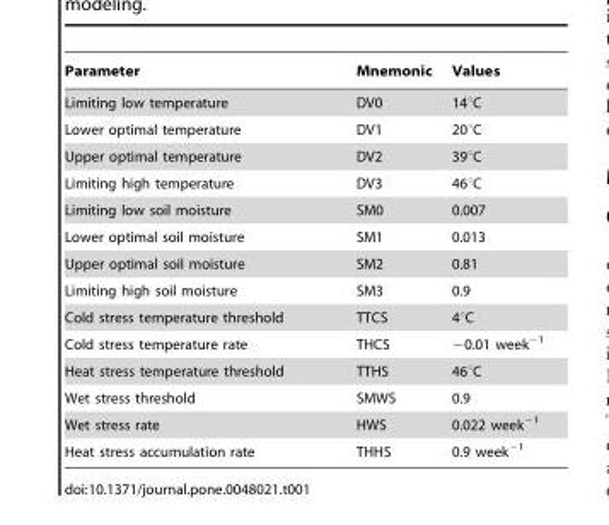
<table><thead><tr><td>Parameter</td><td>Mnemonic</td><td>Values</td></tr></thead><tbody><tr><td>Limiting low temperature</td><td>DV0</td><td>14°C</td></tr><tr><td>Lower optimal temperature</td><td>DV1</td><td>20°C</td></tr><tr><td>Upper optimal temperature</td><td>DV2</td><td>39°C</td></tr><tr><td>Limiting high temperature</td><td>DV3</td><td>46°C</td></tr><tr><td>Limiting low soil moisture</td><td>SM0</td><td>0.007</td></tr><tr><td>Lower optimal soil moisture</td><td>SM1</td><td>0.013</td></tr><tr><td>Upper optimal soil moisture</td><td>SM2</td><td>0.81</td></tr><tr><td>Limiting high soil moisture</td><td>SM3</td><td>0.9</td></tr><tr><td>Cold stress temperature threshold</td><td>TTCS</td><td>4°C</td></tr><tr><td>Cold stress temperature rate</td><td>THCS</td><td>−0.01 week<sup>−1</sup></td></tr><tr><td>Heat stress temperature threshold</td><td>TTHS</td><td>46°C</td></tr><tr><td>Wet stress threshold</td><td>SMWS</td><td>0.9</td></tr><tr><td>Wet stress rate</td><td>HWS</td><td>0.022 week<sup>−1</sup></td></tr><tr><td>Heat stress accumulation rate</td><td>THHS</td><td>0.9 week<sup>−1</sup></td></tr></tbody></table>